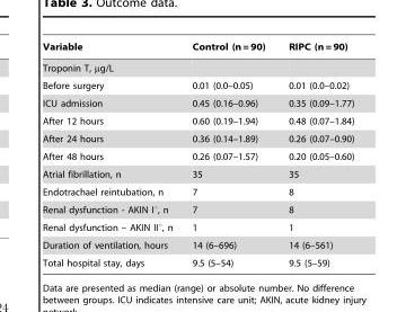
<table><thead><tr><td>Variable</td><td>Control (n = 90)</td><td>RIPC (n = 90)</td></tr></thead><tbody><tr><td colspan="3">Troponin T, µg/L</td></tr><tr><td>Before surgery</td><td>0.01 (0.0–0.05)</td><td>0.01 (0.0–0.02)</td></tr><tr><td>ICU admission</td><td>0.45 (0.16–0.96)</td><td>0.35 (0.09–1.77)</td></tr><tr><td>After 12 hours</td><td>0.60 (0.19–1.94)</td><td>0.48 (0.07–1.84)</td></tr><tr><td>After 24 hours</td><td>0.36 (0.14–1.89)</td><td>0.26 (0.07–0.90)</td></tr><tr><td>After 48 hours</td><td>0.26 (0.07–1.57)</td><td>0.20 (0.05–0.60)</td></tr><tr><td>Atrial fibrillation, n</td><td>35</td><td>35</td></tr><tr><td>Endotrachael reintubation, n</td><td>7</td><td>8</td></tr><tr><td>Renal dysfunction - AKIN I°, n</td><td>7</td><td>8</td></tr><tr><td>Renal dysfunction – AKIN II°, n</td><td>1</td><td>1</td></tr><tr><td>Duration of ventilation, hours</td><td>14 (6–696)</td><td>14 (6–561)</td></tr><tr><td>Total hospital stay, days</td><td>9.5 (5–54)</td><td>9.5 (5–59)</td></tr></tbody></table>